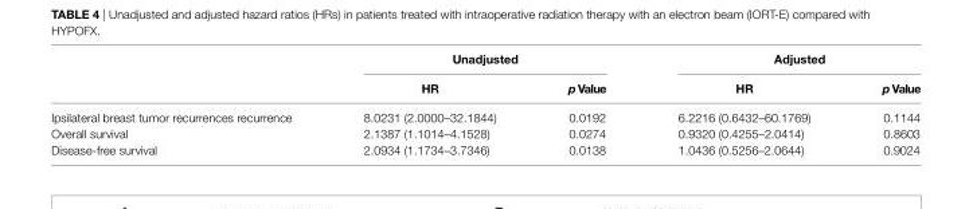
<table><thead><tr><td rowspan="2"></td><td colspan="2">Unadjusted</td><td colspan="2">adjusted</td></tr><tr><td>hr</td><td>p Value</td><td>hr</td><td>p Value</td></tr></thead><tbody><tr><td>Ipsilateral breast tumor recurrences recurrence</td><td>8.0231 (2.0000–32.1844)</td><td>0.0192</td><td>6.2216 (0.6432–60.1769)</td><td>0.1144</td></tr><tr><td>Overall survival</td><td>2.1387 (1.1014–4.1528)</td><td>0.0274</td><td>0.9320 (0.4255–2.0414)</td><td>0.8603</td></tr><tr><td>Disease-free survival</td><td>2.0934 (1.1734–3.7346)</td><td>0.0138</td><td>1.0436 (0.5256–2.0644)</td><td>0.9024</td></tr></tbody></table>